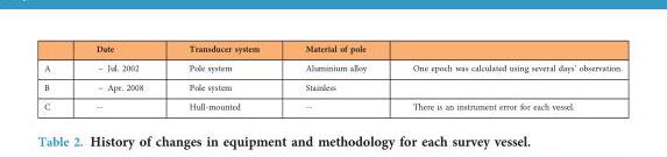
<table><thead><tr><td></td><td>Date</td><td>Transducer system</td><td>Material of pole</td><td></td></tr></thead><tbody><tr><td>A</td><td>~ Jul. 2002</td><td>Pole system</td><td>Aluminium alloy</td><td>One epoch was calculated using several days’ observation.</td></tr><tr><td>B</td><td>~ Apr. 2008</td><td>Pole system</td><td>Stainless</td><td></td></tr><tr><td>C</td><td>--</td><td>Hull-mounted</td><td>--</td><td>There is an instrument error for each vessel.</td></tr></tbody></table>